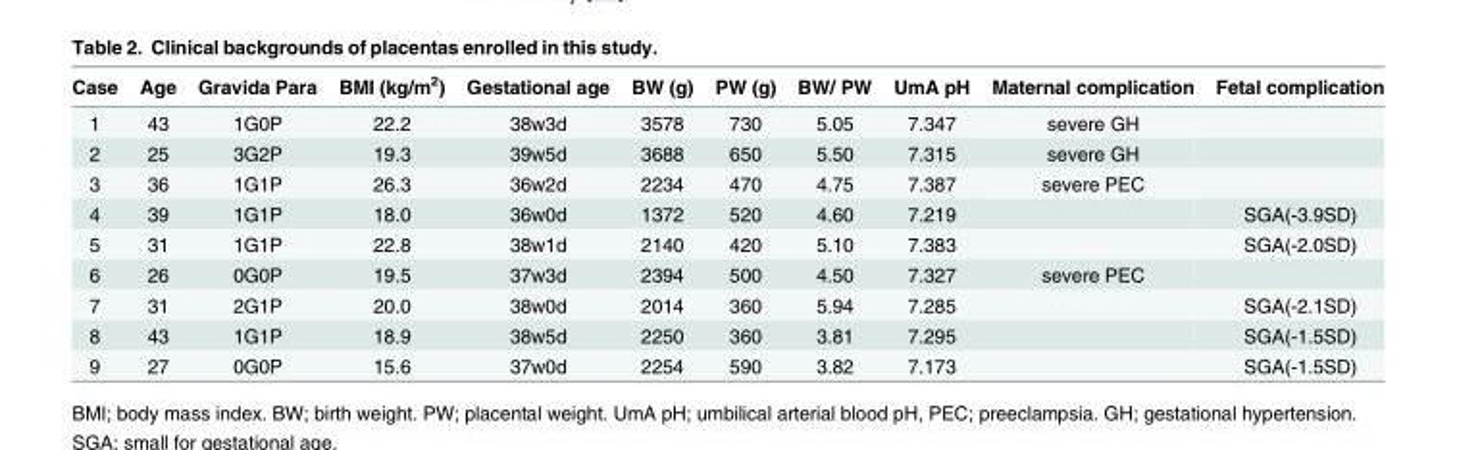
<table><thead><tr><td>Case</td><td>Age</td><td>Gravida Para</td><td>BMI (kg/m<sup>2</sup>)</td><td>Gestational age</td><td>BW (g)</td><td>PW (g)</td><td>BW/ PW</td><td>UmA pH</td><td>Maternal complication</td><td>Fetal complication</td></tr></thead><tbody><tr><td>1</td><td>43</td><td>1G0P</td><td>22.2</td><td>38w3d</td><td>3578</td><td>730</td><td>5.05</td><td>7.347</td><td>severe GH</td><td></td></tr><tr><td>2</td><td>25</td><td>3G2P</td><td>19.3</td><td>39w5d</td><td>3688</td><td>650</td><td>5.50</td><td>7.315</td><td>severe GH</td><td></td></tr><tr><td>3</td><td>36</td><td>1G1P</td><td>26.3</td><td>36w2d</td><td>2234</td><td>470</td><td>4.75</td><td>7.387</td><td>severe PEC</td><td></td></tr><tr><td>4</td><td>39</td><td>1G1P</td><td>18.0</td><td>36w0d</td><td>1372</td><td>520</td><td>4.60</td><td>7.219</td><td></td><td>SGA(-3.9SD)</td></tr><tr><td>5</td><td>31</td><td>1G1P</td><td>22.8</td><td>38w1d</td><td>2140</td><td>420</td><td>5.10</td><td>7.383</td><td></td><td>SGA(-2.0SD)</td></tr><tr><td>6</td><td>26</td><td>0G0P</td><td>19.5</td><td>37w3d</td><td>2394</td><td>500</td><td>4.50</td><td>7.327</td><td>severe PEC</td><td></td></tr><tr><td>7</td><td>31</td><td>2G1P</td><td>20.0</td><td>38w0d</td><td>2014</td><td>360</td><td>5.94</td><td>7.285</td><td></td><td>SGA(-2.1SD)</td></tr><tr><td>8</td><td>43</td><td>1G1P</td><td>18.9</td><td>38w5d</td><td>2250</td><td>360</td><td>3.81</td><td>7.295</td><td></td><td>SGA(-1.5SD)</td></tr><tr><td>9</td><td>27</td><td>0G0P</td><td>15.6</td><td>37w0d</td><td>2254</td><td>590</td><td>3.82</td><td>7.173</td><td></td><td>SGA(-1.5SD)</td></tr></tbody></table>